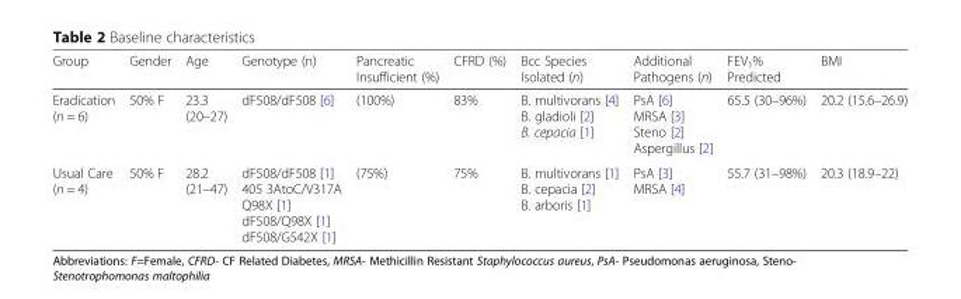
<table><thead><tr><td>Group</td><td>Gender</td><td>Age</td><td>Genotype (n)</td><td>Pancreatic Insufficient (%)</td><td>CFRD (%)</td><td>Bcc Species Isolated (n)</td><td>Additional Pathogens (n)</td><td>FEV<sub>1</sub>% Predicted</td><td>BMI</td></tr></thead><tbody><tr><td>Eradication (n = 6)</td><td>50% F</td><td>23.3 (20–27)</td><td>dF508/dF508 [6]</td><td>(100%)</td><td>83%</td><td>B. multivorans [4] B. gladioli [2] B. cepacia [1]</td><td>PsA [6] MRSA [3] Steno [2] Aspergillus [2]</td><td>65.5 (30–96%)</td><td>20.2 (15.6–26.9)</td></tr><tr><td>Usual Care (n = 4)</td><td>50% F</td><td>28.2 (21–47)</td><td>dF508/dF508 [1] 405 3AtoC/V317A Q98X [1] dF508/Q98X [1] dF508/G542X [1]</td><td>(75%)</td><td>75%</td><td>B. multivorans [1] B. cepacia [2] B. arboris [1]</td><td>PsA [3] MRSA [4]</td><td>55.7 (31–98%)</td><td>20.3 (18.9–22)</td></tr></tbody></table>